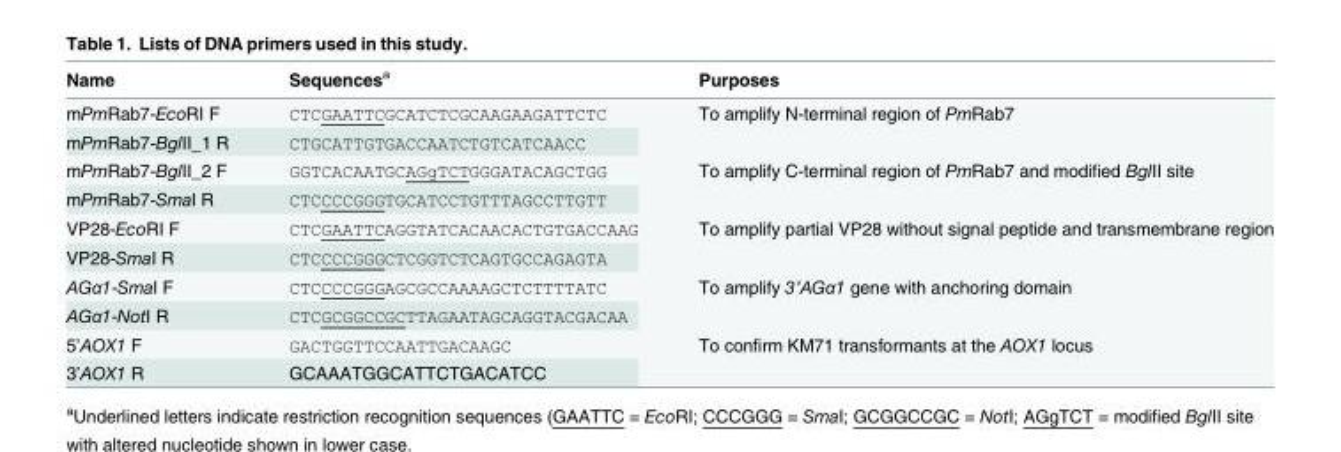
<table><thead><tr><td>Name</td><td>Sequences<sup>a</sup></td><td>Purposes</td></tr></thead><tbody><tr><td>mPmRab7-EcoRI F</td><td>CTCGAATTCGCATCTCGCAAGAAGATTCTC</td><td rowspan="2">To amplify N-terminal region of PmRab7</td></tr><tr><td>mPmRab7-BglII_1 R</td><td>CTGCATTGTGACCAATCTGTCATCAACC</td></tr><tr><td>mPmRab7-BglII_2 F</td><td>GGTCACAATGCAGgTCTGGGATACAGCTGG</td><td rowspan="2">To amplify C-terminal region of PmRab7 and modified BglII site</td></tr><tr><td>mPmRab7-SmaI R</td><td>CTCCCCGGGTGCATCCTGTTTAGCCTTGTT</td></tr><tr><td>VP28-EcoRI F</td><td>CTCGAATTCAGGTATCACAACACTGTGACCAAG</td><td rowspan="2">To amplify partial VP28 without signal peptide and transmembrane region</td></tr><tr><td>VP28-SmaI R</td><td>CTCCCCGGGCTCGGTCTCAGTGCCAGAGTA</td></tr><tr><td>AGα1-SmaI F</td><td>CTCCCCGGGAGCGCCAAAAGCTCTTTTATC</td><td rowspan="2">To amplify 3’AGα1 gene with anchoring domain</td></tr><tr><td>AGα1-NotI R</td><td>CTCGCGGCCGCTTAGAATAGCAGGTACGACAA</td></tr><tr><td>5’AOX1 F</td><td>GACTGGTTCCAATTGACAAGC</td><td rowspan="2">To confirm KM71 transformants at the AOX1 locus</td></tr><tr><td>3’AOX1 R</td><td>GCAAATGGCATTCTGACATCC</td></tr></tbody></table>